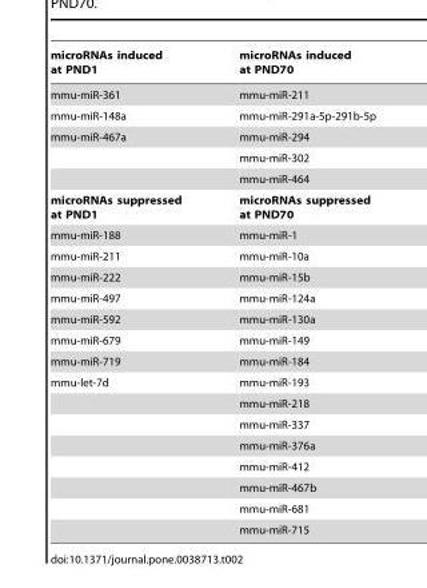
<table><thead><tr><td>microRNAs induced at PND1</td><td>microRNAs induced at PND70</td></tr></thead><tbody><tr><td>mmu-miR-361</td><td>mmu-miR-211</td></tr><tr><td>mmu-miR-148a</td><td>mmu-miR-291a-5p-291b-5p</td></tr><tr><td rowspan="3">mmu-miR-467a</td><td>mmu-miR-294</td></tr><tr><td>mmu-miR-302</td></tr><tr><td>mmu-miR-464</td></tr><tr><td>microRNAs suppressed at PND1</td><td>microRNAs suppressed at PND70</td></tr><tr><td>mmu-miR-188</td><td>mmu-miR-1</td></tr><tr><td>mmu-miR-211</td><td>mmu-miR-10a</td></tr><tr><td>mmu-miR-222</td><td>mmu-miR-15b</td></tr><tr><td>mmu-miR-497</td><td>mmu-miR-124a</td></tr><tr><td>mmu-miR-592</td><td>mmu-miR-130a</td></tr><tr><td>mmu-miR-679</td><td>mmu-miR-149</td></tr><tr><td>mmu-miR-719</td><td>mmu-miR-184</td></tr><tr><td rowspan="8">mmu-let-7d</td><td>mmu-miR-193</td></tr><tr><td>mmu-miR-218</td></tr><tr><td>mmu-miR-337</td></tr><tr><td>mmu-miR-376a</td></tr><tr><td>mmu-miR-412</td></tr><tr><td>mmu-miR-467b</td></tr><tr><td>mmu-miR-681</td></tr><tr><td>mmu-miR-715</td></tr></tbody></table>